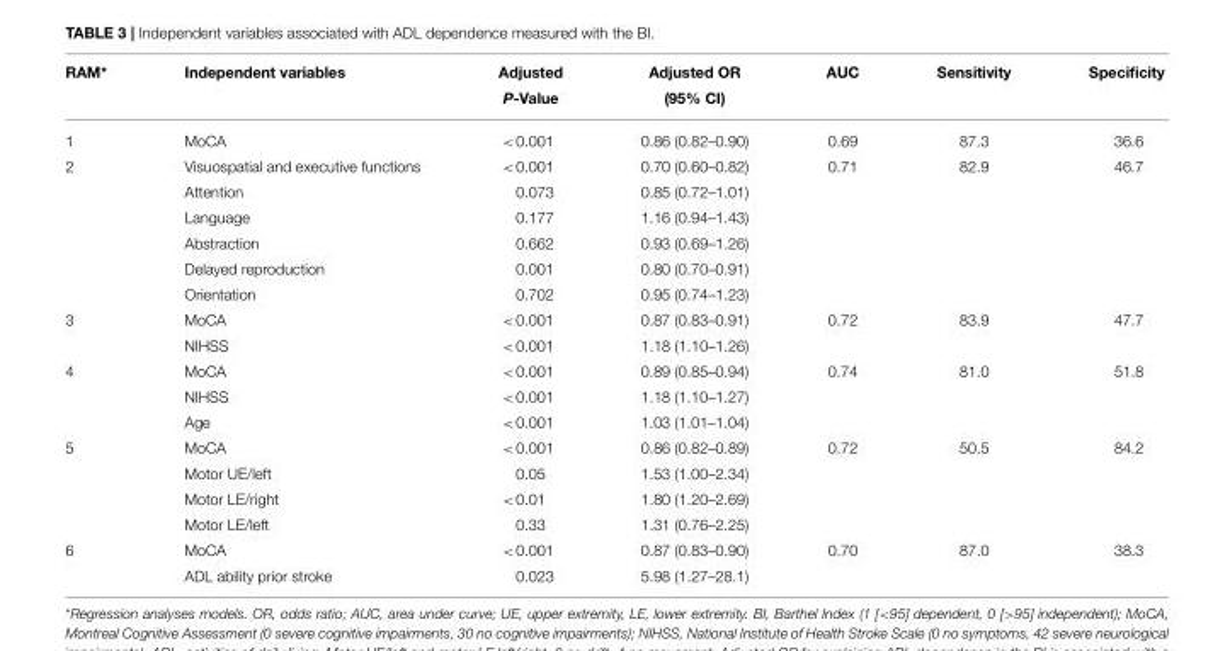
<table><thead><tr><td rowspan="2">RAM*</td><td rowspan="2">Independent variables</td><td rowspan="2">Adjusted P-Value</td><td rowspan="2">Adjusted OR (95% CI)</td><td rowspan="2">AUC</td><td rowspan="2">Sensitivity</td><td rowspan="2">Specificity</td></tr><tr></tr></thead><tbody><tr><td>1</td><td>MoCA</td><td>&lt;0.001</td><td>0.86 (0.82–0.90)</td><td>0.69</td><td>87.3</td><td>36.6</td></tr><tr><td rowspan="6">2</td><td>Visuospatial and executive functions</td><td>&lt;0.001</td><td>0.70 (0.60–0.82)</td><td>0.71</td><td>82.9</td><td>46.7</td></tr><tr><td>Attention</td><td>0.073</td><td>0.85 (0.72–1.01)</td><td></td><td></td><td></td></tr><tr><td>Language</td><td>0.177</td><td>1.16 (0.94–1.43)</td><td></td><td></td><td></td></tr><tr><td>Abstraction</td><td>0.662</td><td>0.93 (0.69–1.26)</td><td></td><td></td><td></td></tr><tr><td>Delayed reproduction</td><td>0.001</td><td>0.80 (0.70–0.91)</td><td></td><td></td><td></td></tr><tr><td>Orientation</td><td>0.702</td><td>0.95 (0.74–1.23)</td><td></td><td></td><td></td></tr><tr><td rowspan="2">3</td><td>MoCA</td><td>&lt;0.001</td><td>0.87 (0.83–0.91)</td><td>0.72</td><td>83.9</td><td>47.7</td></tr><tr><td>NIHSS</td><td>&lt;0.001</td><td>1.18 (1.10–1.26)</td><td></td><td></td><td></td></tr><tr><td rowspan="3">4</td><td>MoCA</td><td>&lt;0.001</td><td>0.89 (0.85–0.94)</td><td>0.74</td><td>81.0</td><td>51.8</td></tr><tr><td>NIHSS</td><td>&lt;0.001</td><td>1.18 (1.10–1.27)</td><td></td><td></td><td></td></tr><tr><td>Age</td><td>&lt;0.001</td><td>1.03 (1.01–1.04)</td><td></td><td></td><td></td></tr><tr><td rowspan="4">5</td><td>MoCA</td><td>&lt;0.001</td><td>0.86 (0.82–0.89)</td><td>0.72</td><td>50.5</td><td>84.2</td></tr><tr><td>Motor UE/left</td><td>0.05</td><td>1.53 (1.00–2.34)</td><td></td><td></td><td></td></tr><tr><td>Motor LE/right</td><td>&lt;0.01</td><td>1.80 (1.20–2.69)</td><td></td><td></td><td></td></tr><tr><td>Motor LE/left</td><td>0.33</td><td>1.31 (0.76–2.25)</td><td></td><td></td><td></td></tr><tr><td rowspan="2">6</td><td>MoCA</td><td>&lt;0.001</td><td>0.87 (0.83–0.90)</td><td>0.70</td><td>87.0</td><td>38.3</td></tr><tr><td>ADL ability prior stroke</td><td>0.023</td><td>5.98 (1.27–28.1)</td><td></td><td></td><td></td></tr></tbody></table>